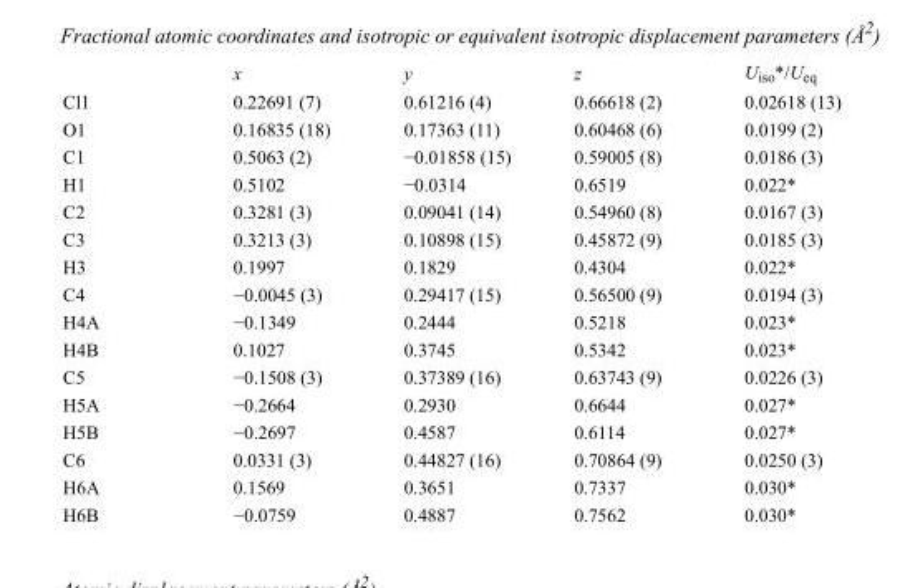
<table><thead><tr><td></td><td>x</td><td>y</td><td>z</td><td>U<sub>iso</sub>*/U<sub>eq</sub></td></tr></thead><tbody><tr><td>Cl1</td><td>0.22691 (7)</td><td>0.61216 (4)</td><td>0.66618 (2)</td><td>0.02618 (13)</td></tr><tr><td>O1</td><td>0.16835 (18)</td><td>0.17363 (11)</td><td>0.60468 (6)</td><td>0.0199 (2)</td></tr><tr><td>C1</td><td>0.5063 (2)</td><td>−0.01858 (15)</td><td>0.59005 (8)</td><td>0.0186 (3)</td></tr><tr><td>H1</td><td>0.5102</td><td>−0.0314</td><td>0.6519</td><td>0.022*</td></tr><tr><td>C2</td><td>0.3281 (3)</td><td>0.09041 (14)</td><td>0.54960 (8)</td><td>0.0167 (3)</td></tr><tr><td>C3</td><td>0.3213 (3)</td><td>0.10898 (15)</td><td>0.45872 (9)</td><td>0.0185 (3)</td></tr><tr><td>H3</td><td>0.1997</td><td>0.1829</td><td>0.4304</td><td>0.022*</td></tr><tr><td>C4</td><td>−0.0045 (3)</td><td>0.29417 (15)</td><td>0.56500 (9)</td><td>0.0194 (3)</td></tr><tr><td>H4A</td><td>−0.1349</td><td>0.2444</td><td>0.5218</td><td>0.023*</td></tr><tr><td>H4B</td><td>0.1027</td><td>0.3745</td><td>0.5342</td><td>0.023*</td></tr><tr><td>C5</td><td>−0.1508 (3)</td><td>0.37389 (16)</td><td>0.63743 (9)</td><td>0.0226 (3)</td></tr><tr><td>H5A</td><td>−0.2664</td><td>0.2930</td><td>0.6644</td><td>0.027*</td></tr><tr><td>H5B</td><td>−0.2697</td><td>0.4587</td><td>0.6114</td><td>0.027*</td></tr><tr><td>C6</td><td>0.0331 (3)</td><td>0.44827 (16)</td><td>0.70864 (9)</td><td>0.0250 (3)</td></tr><tr><td>H6A</td><td>0.1569</td><td>0.3651</td><td>0.7337</td><td>0.030*</td></tr><tr><td>H6B</td><td>−0.0759</td><td>0.4887</td><td>0.7562</td><td>0.030*</td></tr></tbody></table>